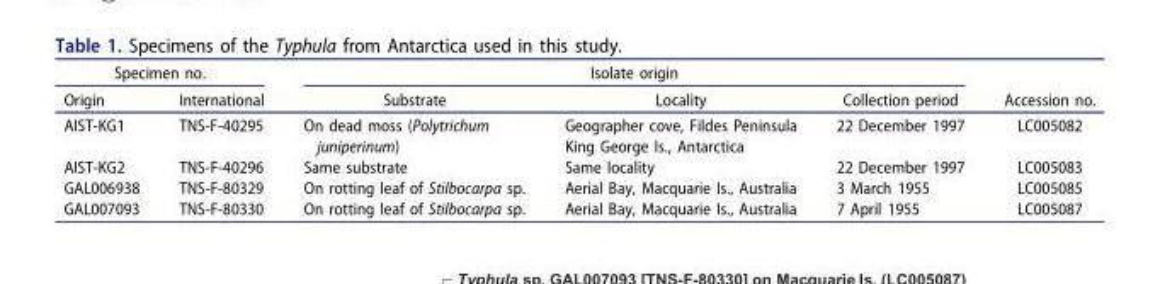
<table><thead><tr><td colspan="2">Specimen no.</td><td colspan="3">Isolate origin</td><td rowspan="2">Accession no.</td></tr><tr><td>Origin</td><td>International</td><td>Substrate</td><td>Locality</td><td>Collection period</td></tr></thead><tbody><tr><td rowspan="2">AIST-KG1</td><td>TNS-F-40295</td><td>On dead moss (Polytrichum</td><td>Geographer cove, Fildes Peninsula</td><td>22 December 1997</td><td>LC005082</td></tr><tr><td></td><td>juniperinum)</td><td>King George Is., Antarctica</td><td></td><td></td></tr><tr><td>AIST-KG2</td><td>TNS-F-40296</td><td>Same substrate</td><td>Same locality</td><td>22 December 1997</td><td>LC005083</td></tr><tr><td>GAL006938</td><td>TNS-F-80329</td><td>On rotting leaf of Stilbocarpa sp.</td><td>Aerial Bay, Macquarie Is., Australia</td><td>3 March 1955</td><td>LC005085</td></tr><tr><td>GAL007093</td><td>TNS-F-80330</td><td>On rotting leaf of Stilbocarpa sp.</td><td>Aerial Bay, Macquarie Is., Australia</td><td>7 April 1955</td><td>LC005087</td></tr></tbody></table>